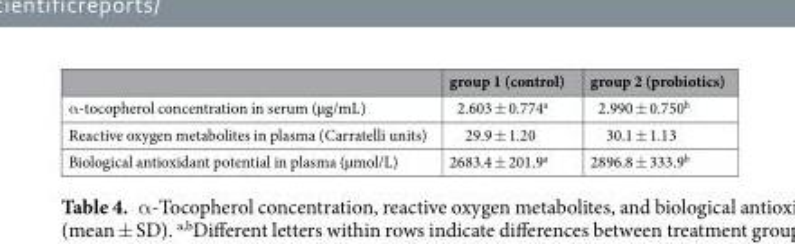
<table><thead><tr><td></td><td>group 1 (control)</td><td>group 2 (probiotics)</td></tr></thead><tbody><tr><td>α-tocopherol concentration in serum (µg/mL)</td><td>2.603 ± 0.774<sup>a</sup></td><td>2.990 ± 0.750<sup>b</sup></td></tr><tr><td>Reactive oxygen metabolites in plasma (Carratelli units)</td><td>29.9 ± 1.20</td><td>30.1 ± 1.13</td></tr><tr><td>Biological antioxidant potential in plasma (µmol/L)</td><td>2683.4 ± 201.9<sup>a</sup></td><td>2896.8 ± 333.9<sup>b</sup></td></tr></tbody></table>